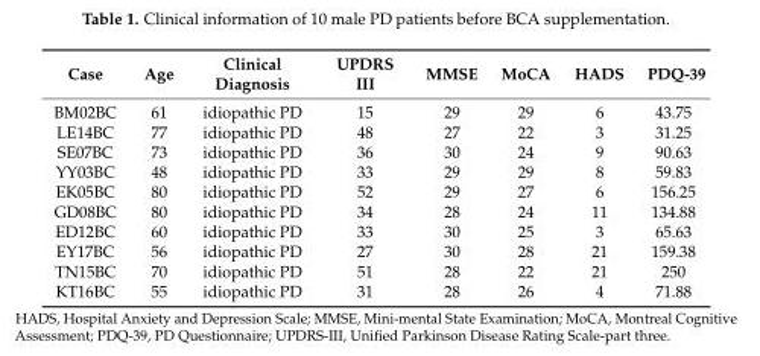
<table><thead><tr><td>Case</td><td>Age</td><td>Clinical Diagnosis</td><td>UPDRS III</td><td>MMSE</td><td>MoCA</td><td>HADS</td><td>PDQ-39</td></tr></thead><tbody><tr><td>BM02BC</td><td>61</td><td>idiopathic PD</td><td>15</td><td>29</td><td>29</td><td>6</td><td>43.75</td></tr><tr><td>LE14BC</td><td>77</td><td>idiopathic PD</td><td>48</td><td>27</td><td>22</td><td>3</td><td>31.25</td></tr><tr><td>SE07BC</td><td>73</td><td>idiopathic PD</td><td>36</td><td>30</td><td>24</td><td>9</td><td>90.63</td></tr><tr><td>YY03BC</td><td>48</td><td>idiopathic PD</td><td>33</td><td>29</td><td>29</td><td>8</td><td>59.83</td></tr><tr><td>EK05BC</td><td>80</td><td>idiopathic PD</td><td>52</td><td>29</td><td>27</td><td>6</td><td>156.25</td></tr><tr><td>GD08BC</td><td>80</td><td>idiopathic PD</td><td>34</td><td>28</td><td>24</td><td>11</td><td>134.88</td></tr><tr><td>ED12BC</td><td>60</td><td>idiopathic PD</td><td>33</td><td>30</td><td>25</td><td>3</td><td>65.63</td></tr><tr><td>EY17BC</td><td>56</td><td>idiopathic PD</td><td>27</td><td>30</td><td>28</td><td>21</td><td>159.38</td></tr><tr><td>TN15BC</td><td>70</td><td>idiopathic PD</td><td>51</td><td>28</td><td>22</td><td>21</td><td>250</td></tr><tr><td>KT16BC</td><td>55</td><td>idiopathic PD</td><td>31</td><td>28</td><td>26</td><td>4</td><td>71.88</td></tr></tbody></table>